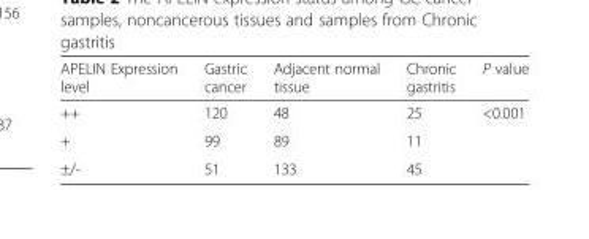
<table><thead><tr><td>APELIN Expression level</td><td>Gastric cancer</td><td>Adjacent normal tissue</td><td>Chronic gastritis</td><td>P value</td></tr></thead><tbody><tr><td>++</td><td>120</td><td>48</td><td>25</td><td>&lt;0.001</td></tr><tr><td>+</td><td>99</td><td>89</td><td>11</td><td></td></tr><tr><td>±/-</td><td>51</td><td>133</td><td>45</td><td></td></tr></tbody></table>